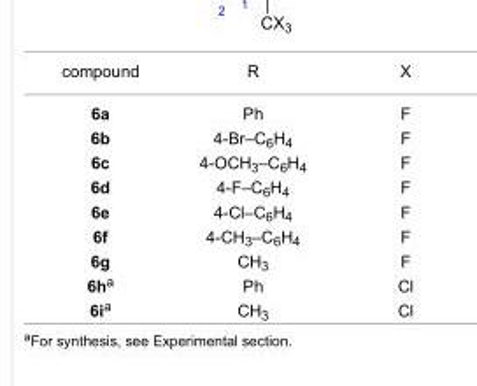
<table><tbody><tr><td>compound</td><td>R</td><td>X</td></tr><tr><td>6a</td><td>Ph</td><td>F</td></tr><tr><td>6b</td><td>4-Br–C<sub>6</sub>H<sub>4</sub></td><td>F</td></tr><tr><td>6c</td><td>4-OCH<sub>3</sub>–C<sub>6</sub>H<sub>4</sub></td><td>F</td></tr><tr><td>6d</td><td>4-F–C<sub>6</sub>H<sub>4</sub></td><td>F</td></tr><tr><td>6e</td><td>4-Cl–C<sub>6</sub>H<sub>4</sub></td><td>F</td></tr><tr><td>6f</td><td>4-CH<sub>3</sub>–C<sub>6</sub>H<sub>4</sub></td><td>F</td></tr><tr><td>6g</td><td>CH<sub>3</sub></td><td>F</td></tr><tr><td>6h<sup>a</sup></td><td>Ph</td><td>Cl</td></tr><tr><td>6i<sup>a</sup></td><td>CH<sub>3</sub></td><td>Cl</td></tr></tbody></table>